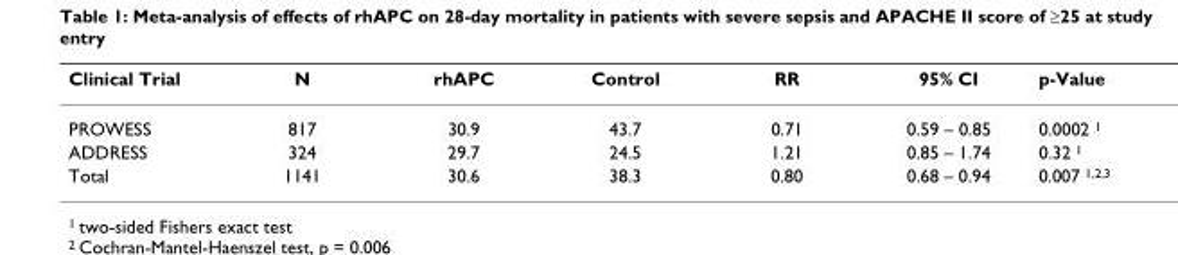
<table><thead><tr><td>Clinical Trial</td><td>N</td><td>rhAPC</td><td>Control</td><td>RR</td><td>95% CI</td><td>p-Value</td></tr></thead><tbody><tr><td>PROWESS</td><td>817</td><td>30.9</td><td>43.7</td><td>0.71</td><td>0.59 – 0.85</td><td>0.0002 <sup>1</sup></td></tr><tr><td>ADDRESS</td><td>324</td><td>29.7</td><td>24.5</td><td>1.21</td><td>0.85 – 1.74</td><td>0.32 <sup>1</sup></td></tr><tr><td>Total</td><td>1141</td><td>30.6</td><td>38.3</td><td>0.80</td><td>0.68 – 0.94</td><td>0.007 <sup>1,2,3</sup></td></tr></tbody></table>